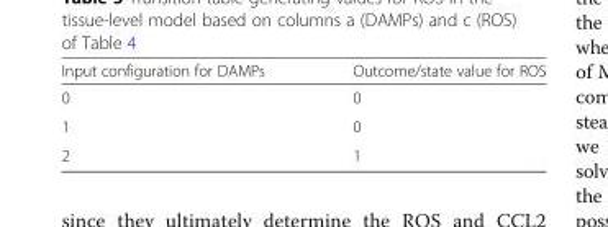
<table><thead><tr><td>Input configuration for DAMPs</td><td>Outcome/state value for ROS</td></tr></thead><tbody><tr><td>0</td><td>0</td></tr><tr><td>1</td><td>0</td></tr><tr><td>2</td><td>1</td></tr></tbody></table>